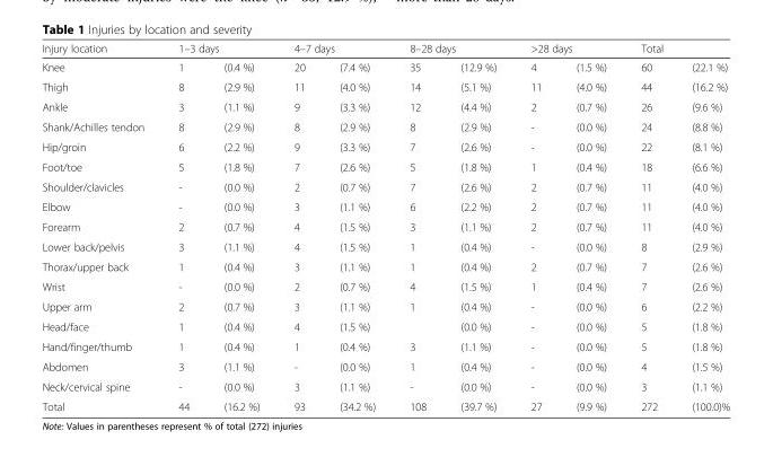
<table><thead><tr><td rowspan="2">Injury location Knee</td><td colspan="2">1–3 days</td><td colspan="2">4–7 days</td><td colspan="2">8–28 days</td><td colspan="2">&gt;28 days</td><td colspan="2">Total</td></tr><tr><td>1</td><td>(0.4 %)</td><td>20</td><td>(7.4 %)</td><td>35</td><td>(12.9 %)</td><td>4</td><td>(1.5 %)</td><td>60</td><td>(22.1 %)</td></tr></thead><tbody><tr><td>Thigh</td><td>8</td><td>(2.9 %)</td><td>11</td><td>(4.0 %)</td><td>14</td><td>(5.1 %)</td><td>11</td><td>(4.0 %)</td><td>44</td><td>(16.2 %)</td></tr><tr><td>Ankle</td><td>3</td><td>(1.1 %)</td><td>9</td><td>(3.3 %)</td><td>12</td><td>(4.4 %)</td><td>2</td><td>(0.7 %)</td><td>26</td><td>(9.6 %)</td></tr><tr><td>Shank/Achilles tendon</td><td>8</td><td>(2.9 %)</td><td>8</td><td>(2.9 %)</td><td>8</td><td>(2.9 %)</td><td>-</td><td>(0.0 %)</td><td>24</td><td>(8.8 %)</td></tr><tr><td>Hip/groin</td><td>6</td><td>(2.2 %)</td><td>9</td><td>(3.3 %)</td><td>7</td><td>(2.6 %)</td><td>-</td><td>(0.0 %)</td><td>22</td><td>(8.1 %)</td></tr><tr><td>Foot/toe</td><td>5</td><td>(1.8 %)</td><td>7</td><td>(2.6 %)</td><td>5</td><td>(1.8 %)</td><td>1</td><td>(0.4 %)</td><td>18</td><td>(6.6 %)</td></tr><tr><td>Shoulder/clavicles</td><td>-</td><td>(0.0 %)</td><td>2</td><td>(0.7 %)</td><td>7</td><td>(2.6 %)</td><td>2</td><td>(0.7 %)</td><td>11</td><td>(4.0 %)</td></tr><tr><td>Elbow</td><td>-</td><td>(0.0 %)</td><td>3</td><td>(1.1 %)</td><td>6</td><td>(2.2 %)</td><td>2</td><td>(0.7 %)</td><td>11</td><td>(4.0 %)</td></tr><tr><td>Forearm</td><td>2</td><td>(0.7 %)</td><td>4</td><td>(1.5 %)</td><td>3</td><td>(1.1 %)</td><td>2</td><td>(0.7 %)</td><td>11</td><td>(4.0 %)</td></tr><tr><td>Lower back/pelvis</td><td>3</td><td>(1.1 %)</td><td>4</td><td>(1.5 %)</td><td>1</td><td>(0.4 %)</td><td>-</td><td>(0.0 %)</td><td>8</td><td>(2.9 %)</td></tr><tr><td>Thorax/upper back</td><td>1</td><td>(0.4 %)</td><td>3</td><td>(1.1 %)</td><td>1</td><td>(0.4 %)</td><td>2</td><td>(0.7 %)</td><td>7</td><td>(2.6 %)</td></tr><tr><td>Wrist</td><td>-</td><td>(0.0 %)</td><td>2</td><td>(0.7 %)</td><td>4</td><td>(1.5 %)</td><td>1</td><td>(0.4 %)</td><td>7</td><td>(2.6 %)</td></tr><tr><td>Upper arm</td><td>2</td><td>(0.7 %)</td><td>3</td><td>(1.1 %)</td><td>1</td><td>(0.4 %)</td><td>-</td><td>(0.0 %)</td><td>6</td><td>(2.2 %)</td></tr><tr><td>Head/face</td><td>1</td><td>(0.4 %)</td><td>4</td><td>(1.5 %)</td><td></td><td>(0.0 %)</td><td>-</td><td>(0.0 %)</td><td>5</td><td>(1.8 %)</td></tr><tr><td>Hand/finger/thumb</td><td>1</td><td>(0.4 %)</td><td>1</td><td>(0.4 %)</td><td>3</td><td>(1.1 %)</td><td>-</td><td>(0.0 %)</td><td>5</td><td>(1.8 %)</td></tr><tr><td>Abdomen</td><td>3</td><td>(1.1 %)</td><td>-</td><td>(0.0 %)</td><td>1</td><td>(0.4 %)</td><td>-</td><td>(0.0 %)</td><td>4</td><td>(1.5 %)</td></tr><tr><td>Neck/cervical spine</td><td>-</td><td>(0.0 %)</td><td>3</td><td>(1.1 %)</td><td>-</td><td>(0.0 %)</td><td>-</td><td>(0.0 %)</td><td>3</td><td>(1.1 %)</td></tr><tr><td>Total</td><td>44</td><td>(16.2 %)</td><td>93</td><td>(34.2 %)</td><td>108</td><td>(39.7 %)</td><td>27</td><td>(9.9 %)</td><td>272</td><td>(100.0)%</td></tr></tbody></table>